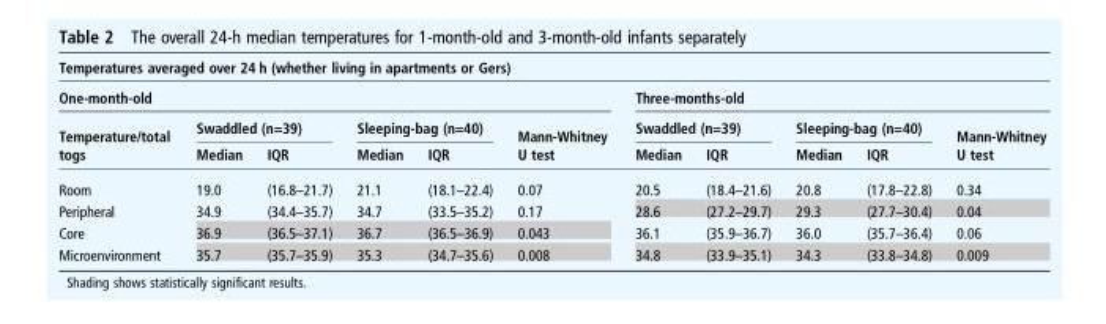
<table><thead><tr><td colspan="11">Temperatures averaged over 24 h (whether living in apartments or Gers)</td></tr><tr><td colspan="6">One-month-old</td><td colspan="5">Three-months-old</td></tr><tr><td rowspan="2">Temperature/total togs</td><td colspan="2">Swaddled (n=39)</td><td colspan="2">Sleeping-bag (n=40)</td><td rowspan="2">Mann-Whitney U test</td><td colspan="2">Swaddled (n=39)</td><td colspan="2">Sleeping-bag (n=40)</td><td rowspan="2">Mann-Whitney U test</td></tr><tr><td>Median</td><td>IQR</td><td>Median</td><td>IQR</td><td>Median</td><td>IQR</td><td>Median</td><td>IQR</td></tr></thead><tbody><tr><td>Room</td><td>19.0</td><td>(16.8–21.7)</td><td>21.1</td><td>(18.1–22.4)</td><td>0.07</td><td>20.5</td><td>(18.4–21.6)</td><td>20.8</td><td>(17.8–22.8)</td><td>0.34</td></tr><tr><td>Peripheral</td><td>34.9</td><td>(34.4–35.7)</td><td>34.7</td><td>(33.5–35.2)</td><td>0.17</td><td>28.6</td><td>(27.2–29.7)</td><td>29.3</td><td>(27.7–30.4)</td><td>0.04</td></tr><tr><td>Core</td><td>36.9</td><td>(36.5–37.1)</td><td>36.7</td><td>(36.5–36.9)</td><td>0.043</td><td>36.1</td><td>(35.9–36.7)</td><td>36.0</td><td>(35.7–36.4)</td><td>0.06</td></tr><tr><td>Microenvironment</td><td>35.7</td><td>(35.7–35.9)</td><td>35.3</td><td>(34.7–35.6)</td><td>0.008</td><td>34.8</td><td>(33.9–35.1)</td><td>34.3</td><td>(33.8–34.8)</td><td>0.009</td></tr></tbody></table>